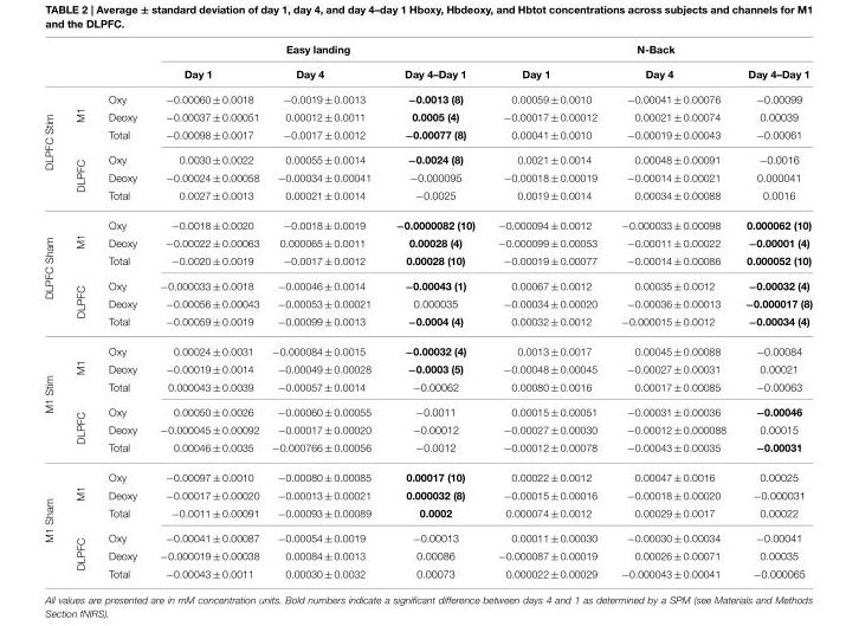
<table><thead><tr><td rowspan="2"></td><td rowspan="2"></td><td rowspan="2"></td><td colspan="3">Easy landing</td><td colspan="3">N-Back</td></tr><tr><td>Day 1</td><td>Day 4</td><td>Day 4–Day 1</td><td>Day 1</td><td>Day 4</td><td>Day 4–Day 1</td></tr></thead><tbody><tr><td rowspan="6">DLPFC Stim</td><td rowspan="3">M1</td><td>Oxy</td><td>−0.00060 ± 0.0018</td><td>−0.0019 ± 0.0013</td><td>−0.0013 (8)</td><td>0.00059 ± 0.0010</td><td>−0.00041 ± 0.00076</td><td>−0.00099</td></tr><tr><td>Deoxy</td><td>−0.00037 ± 0.00051</td><td>0.00012 ± 0.0011</td><td>0.0005 (4)</td><td>−0.00017 ± 0.00012</td><td>0.00021 ± 0.00074</td><td>0.00039</td></tr><tr><td>Total</td><td>−0.00098 ± 0.0017</td><td>−0.0017 ± 0.0012</td><td>−0.00077 (8)</td><td>0.00041 ± 0.0010</td><td>−0.00019 ± 0.00043</td><td>−0.00061</td></tr><tr><td rowspan="3">DLPFC</td><td>Oxy</td><td>0.0030 ± 0.0022</td><td>0.00055 ± 0.0014</td><td>−0.0024 (8)</td><td>0.0021 ± 0.0014</td><td>0.00048 ± 0.00091</td><td>−0.0016</td></tr><tr><td>Deoxy</td><td>−0.00024 ± 0.00058</td><td>−0.00034 ± 0.00041</td><td>−0.000095</td><td>−0.00018 ± 0.00019</td><td>−0.00014 ± 0.00021</td><td>0.000041</td></tr><tr><td>Total</td><td>0.0027 ± 0.0013</td><td>0.00021 ± 0.0014</td><td>−0.0025</td><td>0.0019 ± 0.0014</td><td>0.00034 ± 0.00088</td><td>0.0016</td></tr><tr><td rowspan="6">DLPFC Sham</td><td rowspan="3">M1</td><td>Oxy</td><td>−0.0018 ± 0.0020</td><td>−0.0018 ± 0.0019</td><td>−0.0000082 (10)</td><td>−0.000094 ± 0.0012</td><td>−0.000033 ± 0.00098</td><td>0.000062 (10)</td></tr><tr><td>Deoxy</td><td>−0.00022 ± 0.00063</td><td>0.000065 ± 0.0011</td><td>0.00028 (4)</td><td>−0.000099 ± 0.00053</td><td>−0.00011 ± 0.00022</td><td>−0.00001 (4)</td></tr><tr><td>Total</td><td>−0.0020 ± 0.0019</td><td>−0.0017 ± 0.0012</td><td>0.00028 (10)</td><td>−0.00019 ± 0.00077</td><td>−0.00014 ± 0.00086</td><td>0.000052 (10)</td></tr><tr><td rowspan="3">DLPFC</td><td>Oxy</td><td>−0.000033 ± 0.0018</td><td>−0.00046 ± 0.0014</td><td>−0.00043 (1)</td><td>0.00067 ± 0.0012</td><td>0.00035 ± 0.0012</td><td>−0.00032 (4)</td></tr><tr><td>Deoxy</td><td>−0.00056 ± 0.00043</td><td>−0.00053 ± 0.00021</td><td>0.000035</td><td>−0.00034 ± 0.00020</td><td>−0.00036 ± 0.00013</td><td>−0.000017 (8)</td></tr><tr><td>Total</td><td>−0.00059 ± 0.0019</td><td>−0.00099 ± 0.0013</td><td>−0.0004 (4)</td><td>0.00032 ± 0.0012</td><td>−0.000015 ± 0.0012</td><td>−0.00034 (4)</td></tr><tr><td rowspan="6">M1 Stim</td><td rowspan="3">M1</td><td>Oxy</td><td>0.00024 ± 0.0031</td><td>−0.000084 ± 0.0015</td><td>−0.00032 (4)</td><td>0.0013 ± 0.0017</td><td>0.00045 ± 0.00088</td><td>−0.00084</td></tr><tr><td>Deoxy</td><td>−0.00019 ± 0.0014</td><td>−0.00049 ± 0.00028</td><td>−0.0003 (5)</td><td>−0.00048 ± 0.00045</td><td>−0.00027 ± 0.00031</td><td>0.00021</td></tr><tr><td>Total</td><td>0.000043 ± 0.0039</td><td>−0.00057 ± 0.0014</td><td>−0.00062</td><td>0.00080 ± 0.0016</td><td>0.00017 ± 0.00085</td><td>−0.00063</td></tr><tr><td rowspan="3">DLPFC</td><td>Oxy</td><td>0.00050 ± 0.0026</td><td>−0.00060 ± 0.00055</td><td>−0.0011</td><td>0.00015 ± 0.00051</td><td>−0.00031 ± 0.00036</td><td>−0.00046</td></tr><tr><td>Deoxy</td><td>−0.000045 ± 0.00092</td><td>−0.00017 ± 0.00020</td><td>−0.00012</td><td>−0.00027 ± 0.00030</td><td>−0.00012 ± 0.000088</td><td>0.00015</td></tr><tr><td>Total</td><td>0.00046 ± 0.0035</td><td>−0.000766 ± 0.00056</td><td>−0.0012</td><td>−0.00012 ± 0.00078</td><td>−0.00043 ± 0.00035</td><td>−0.00031</td></tr><tr><td rowspan="6">M1 Sham</td><td rowspan="3">M1</td><td>Oxy</td><td>−0.00097 ± 0.0010</td><td>−0.00080 ± 0.00085</td><td>0.00017 (10)</td><td>0.00022 ± 0.0012</td><td>0.00047 ± 0.0016</td><td>0.00025</td></tr><tr><td>Deoxy</td><td>−0.00017 ± 0.00020</td><td>−0.00013 ± 0.00021</td><td>0.000032 (8)</td><td>−0.00015 ± 0.00016</td><td>−0.00018 ± 0.00020</td><td>−0.000031</td></tr><tr><td>Total</td><td>−0.0011 ± 0.00091</td><td>−0.00093 ± 0.00089</td><td>0.0002</td><td>0.000074 ± 0.0012</td><td>0.00029 ± 0.0017</td><td>0.00022</td></tr><tr><td rowspan="3">DLPFC</td><td>Oxy</td><td>−0.00041 ± 0.00087</td><td>−0.00054 ± 0.0019</td><td>−0.00013</td><td>0.00011 ± 0.00030</td><td>−0.00030 ± 0.00034</td><td>−0.00041</td></tr><tr><td>Deoxy</td><td>−0.000019 ± 0.00038</td><td>0.00084 ± 0.0013</td><td>0.00086</td><td>−0.000087 ± 0.00019</td><td>0.00026 ± 0.00071</td><td>0.00035</td></tr><tr><td>Total</td><td>−0.00043 ± 0.0011</td><td>0.00030 ± 0.0032</td><td>0.00073</td><td>0.000022 ± 0.00029</td><td>−0.000043 ± 0.00041</td><td>−0.000065</td></tr></tbody></table>